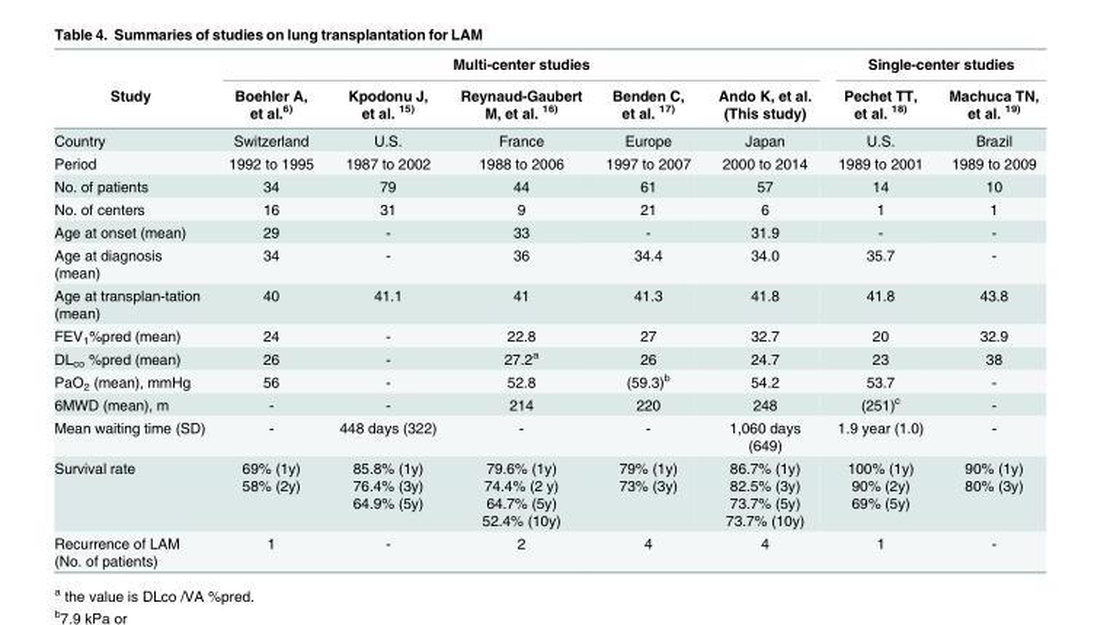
<table><thead><tr><td rowspan="2">Study</td><td colspan="5">Multi-center studies</td><td colspan="2">Single-center studies</td></tr><tr><td>Boehler A, et al.<sup>6)</sup></td><td>Kpodonu J, et al. <sup>15)</sup></td><td>Reynaud-Gaubert M, et al. <sup>16)</sup></td><td>Benden C, et al. <sup>17)</sup></td><td>Ando K, et al. (This study)</td><td>Pechet TT, et al. <sup>18)</sup></td><td>Machuca TN, et al. <sup>19)</sup></td></tr></thead><tbody><tr><td>Country</td><td>Switzerland</td><td>U.S.</td><td>France</td><td>Europe</td><td>Japan</td><td>U.S.</td><td>Brazil</td></tr><tr><td>Period</td><td>1992 to 1995</td><td>1987 to 2002</td><td>1988 to 2006</td><td>1997 to 2007</td><td>2000 to 2014</td><td>1989 to 2001</td><td>1989 to 2009</td></tr><tr><td>No. of patients</td><td>34</td><td>79</td><td>44</td><td>61</td><td>57</td><td>14</td><td>10</td></tr><tr><td>No. of centers</td><td>16</td><td>31</td><td>9</td><td>21</td><td>6</td><td>1</td><td>1</td></tr><tr><td>Age at onset (mean)</td><td>29</td><td>-</td><td>33</td><td>-</td><td>31.9</td><td>-</td><td>-</td></tr><tr><td>Age at diagnosis (mean)</td><td>34</td><td>-</td><td>36</td><td>34.4</td><td>34.0</td><td>35.7</td><td>-</td></tr><tr><td>Age at transplan-tation (mean)</td><td>40</td><td>41.1</td><td>41</td><td>41.3</td><td>41.8</td><td>41.8</td><td>43.8</td></tr><tr><td>FEV<sub>1</sub>%pred (mean)</td><td>24</td><td>-</td><td>22.8</td><td>27</td><td>32.7</td><td>20</td><td>32.9</td></tr><tr><td>DL<sub>co</sub> %pred (mean)</td><td>26</td><td>-</td><td>27.2<sup>a</sup></td><td>26</td><td>24.7</td><td>23</td><td>38</td></tr><tr><td>PaO<sub>2</sub> (mean), mmHg</td><td>56</td><td>-</td><td>52.8</td><td>(59.3)<sup>b</sup></td><td>54.2</td><td>53.7</td><td>-</td></tr><tr><td>6MWD (mean), m</td><td>-</td><td>-</td><td>214</td><td>220</td><td>248</td><td>(251)<sup>c</sup></td><td>-</td></tr><tr><td>Mean waiting time (SD)</td><td>-</td><td>448 days (322)</td><td>-</td><td>-</td><td>1,060 days (649)</td><td>1.9 year (1.0)</td><td>-</td></tr><tr><td>Survival rate</td><td>69% (1y) 58% (2y)</td><td>85.8% (1y) 76.4% (3y) 64.9% (5y)</td><td>79.6% (1y) 74.4% (2 y) 64.7% (5y) 52.4% (10y)</td><td>79% (1y) 73% (3y)</td><td>86.7% (1y) 82.5% (3y) 73.7% (5y) 73.7% (10y)</td><td>100% (1y) 90% (2y) 69% (5y)</td><td>90% (1y) 80% (3y)</td></tr><tr><td>Recurrence of LAM (No. of patients)</td><td>1</td><td>-</td><td>2</td><td>4</td><td>4</td><td>1</td><td>-</td></tr></tbody></table>